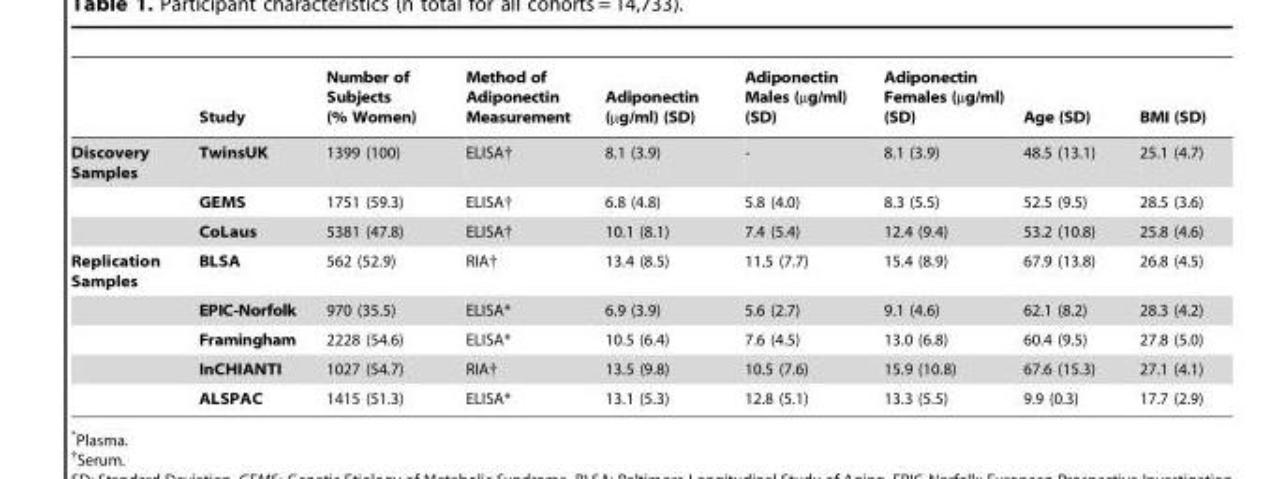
<table><thead><tr><td></td><td>Study</td><td>Number of Subjects (% Women)</td><td>Method of Adiponectin Measurement</td><td>Adiponectin (µg/ml) (SD)</td><td>Adiponectin Males (µg/ml) (SD)</td><td>Adiponectin Females (µg/ml) (SD)</td><td>Age (SD)</td><td>BMI (SD)</td></tr></thead><tbody><tr><td rowspan="3">Discovery Samples</td><td>TwinsUK</td><td>1399 (100)</td><td>ELISA†</td><td>8.1 (3.9)</td><td>-</td><td>8.1 (3.9)</td><td>48.5 (13.1)</td><td>25.1 (4.7)</td></tr><tr><td>GEMS</td><td>1751 (59.3)</td><td>ELISA†</td><td>6.8 (4.8)</td><td>5.8 (4.0)</td><td>8.3 (5.5)</td><td>52.5 (9.5)</td><td>28.5 (3.6)</td></tr><tr><td>CoLaus</td><td>5381 (47.8)</td><td>ELISA†</td><td>10.1 (8.1)</td><td>7.4 (5.4)</td><td>12.4 (9.4)</td><td>53.2 (10.8)</td><td>25.8 (4.6)</td></tr><tr><td rowspan="5">Replication Samples</td><td>BLSA</td><td>562 (52.9)</td><td>RIA†</td><td>13.4 (8.5)</td><td>11.5 (7.7)</td><td>15.4 (8.9)</td><td>67.9 (13.8)</td><td>26.8 (4.5)</td></tr><tr><td>EPIC-Norfolk</td><td>970 (35.5)</td><td>ELISA*</td><td>6.9 (3.9)</td><td>5.6 (2.7)</td><td>9.1 (4.6)</td><td>62.1 (8.2)</td><td>28.3 (4.2)</td></tr><tr><td>Framingham</td><td>2228 (54.6)</td><td>ELISA*</td><td>10.5 (6.4)</td><td>7.6 (4.5)</td><td>13.0 (6.8)</td><td>60.4 (9.5)</td><td>27.8 (5.0)</td></tr><tr><td>InCHIANTI</td><td>1027 (54.7)</td><td>RIA†</td><td>13.5 (9.8)</td><td>10.5 (7.6)</td><td>15.9 (10.8)</td><td>67.6 (15.3)</td><td>27.1 (4.1)</td></tr><tr><td>ALSPAC</td><td>1415 (51.3)</td><td>ELISA*</td><td>13.1 (5.3)</td><td>12.8 (5.1)</td><td>13.3 (5.5)</td><td>9.9 (0.3)</td><td>17.7 (2.9)</td></tr></tbody></table>